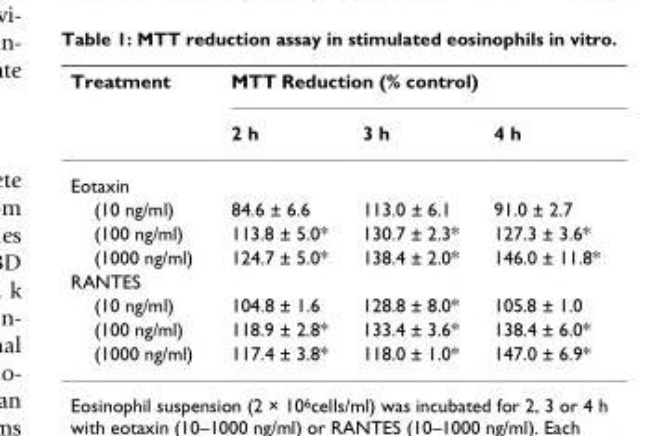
<table><thead><tr><td rowspan="2">Treatment</td><td colspan="3">MTT Reduction (% control)</td></tr><tr><td>2 h</td><td>3 h</td><td>4 h</td></tr></thead><tbody><tr><td colspan="4">Eotaxin</td></tr><tr><td>(10 ng/ml)</td><td>84.6 ± 6.6</td><td>113.0 ± 6.1</td><td>91.0 ± 2.7</td></tr><tr><td>(100 ng/ml)</td><td>113.8 ± 5.0*</td><td>130.7 ± 2.3*</td><td>127.3 ± 3.6*</td></tr><tr><td>(1000 ng/ml)</td><td>124.7 ± 5.0*</td><td>138.4 ± 2.0*</td><td>146.0 ± 11.8*</td></tr><tr><td colspan="4">RANTES</td></tr><tr><td>(10 ng/ml)</td><td>104.8 ± 1.6</td><td>128.8 ± 8.0*</td><td>105.8 ± 1.0</td></tr><tr><td>(100 ng/ml)</td><td>118.9 ± 2.8*</td><td>133.4 ± 3.6*</td><td>138.4 ± 6.0*</td></tr><tr><td>(1000 ng/ml)</td><td>117.4 ± 3.8*</td><td>118.0 ± 1.0*</td><td>147.0 ± 6.9*</td></tr></tbody></table>